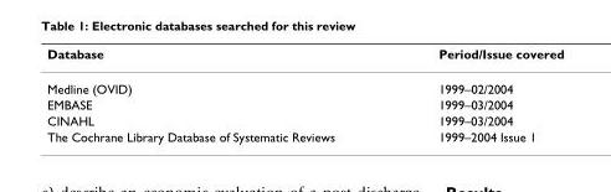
<table><thead><tr><td>Database</td><td>Period/Issue covered</td></tr></thead><tbody><tr><td>Medline (OVID)</td><td>1999–02/2004</td></tr><tr><td>EMBASE</td><td>1999–03/2004</td></tr><tr><td>CINAHL</td><td>1999–03/2004</td></tr><tr><td>The Cochrane Library Database of Systematic Reviews</td><td>1999–2004 Issue 1</td></tr></tbody></table>